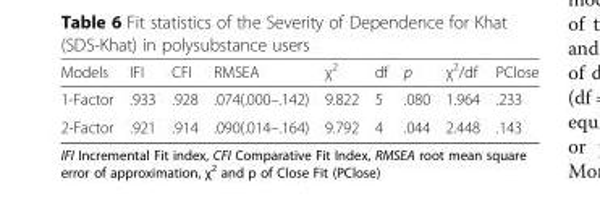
<table><thead><tr><td>Models</td><td>IFI</td><td>CFI</td><td>RMSEA</td><td>χ<sup>2</sup></td><td>df</td><td>p</td><td>χ<sup>2</sup>/df</td><td>PClose</td></tr></thead><tbody><tr><td>1-Factor</td><td>.933</td><td>.928</td><td>.074(.000–.142)</td><td>9.822</td><td>5</td><td>.080</td><td>1.964</td><td>.233</td></tr><tr><td>2-Factor</td><td>.921</td><td>.914</td><td>.090(.014–.164)</td><td>9.792</td><td>4</td><td>.044</td><td>2.448</td><td>.143</td></tr></tbody></table>